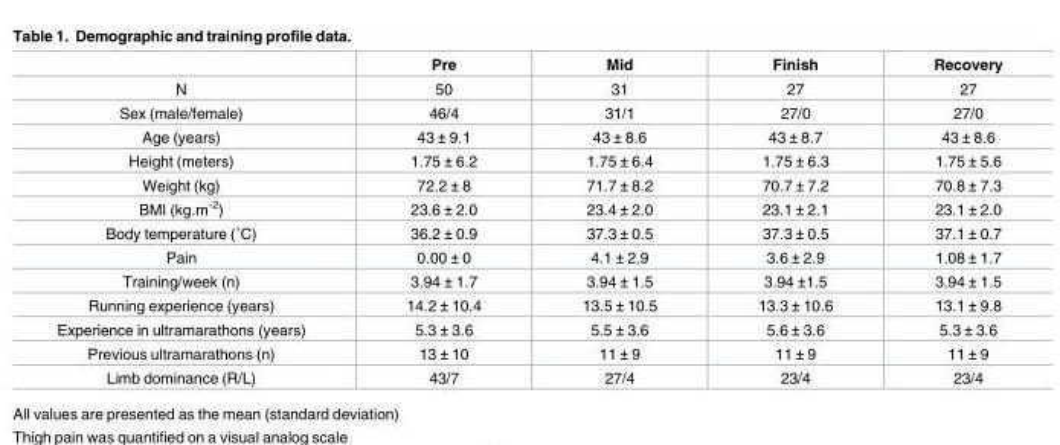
<table><thead><tr><td></td><td>Pre</td><td>Mid</td><td>Finish</td><td>Recovery</td></tr></thead><tbody><tr><td>N</td><td>50</td><td>31</td><td>27</td><td>27</td></tr><tr><td>Sex (male/female)</td><td>46/4</td><td>31/1</td><td>27/0</td><td>27/0</td></tr><tr><td>Age (years)</td><td>43 ± 9.1</td><td>43 ± 8.6</td><td>43 ± 8.7</td><td>43 ± 8.6</td></tr><tr><td>Height (meters)</td><td>1.75 ± 6.2</td><td>1.75 ± 6.4</td><td>1.75 ± 6.3</td><td>1.75 ± 5.6</td></tr><tr><td>Weight (kg)</td><td>72.2 ± 8</td><td>71.7 ± 8.2</td><td>70.7 ± 7.2</td><td>70.8 ± 7.3</td></tr><tr><td>BMI (kg.m<sup>-2</sup>)</td><td>23.6 ± 2.0</td><td>23.4 ± 2.0</td><td>23.1 ± 2.1</td><td>23.1 ± 2.0</td></tr><tr><td>Body temperature (˚C)</td><td>36.2 ± 0.9</td><td>37.3 ± 0.5</td><td>37.3 ± 0.5</td><td>37.1 ± 0.7</td></tr><tr><td>Pain</td><td>0.00 ± 0</td><td>4.1 ± 2.9</td><td>3.6 ± 2.9</td><td>1.08 ± 1.7</td></tr><tr><td>Training/week (n)</td><td>3.94 ± 1.7</td><td>3.94 ± 1.5</td><td>3.94 ±1.5</td><td>3.94 ± 1.5</td></tr><tr><td>Running experience (years)</td><td>14.2 ± 10.4</td><td>13.5 ± 10.5</td><td>13.3 ± 10.6</td><td>13.1 ± 9.8</td></tr><tr><td>Experience in ultramarathons (years)</td><td>5.3 ± 3.6</td><td>5.5 ± 3.6</td><td>5.6 ± 3.6</td><td>5.3 ± 3.6</td></tr><tr><td>Previous ultramarathons (n)</td><td>13 ± 10</td><td>11 ± 9</td><td>11 ± 9</td><td>11 ± 9</td></tr><tr><td>Limb dominance (R/L)</td><td>43/7</td><td>27/4</td><td>23/4</td><td>23/4</td></tr></tbody></table>